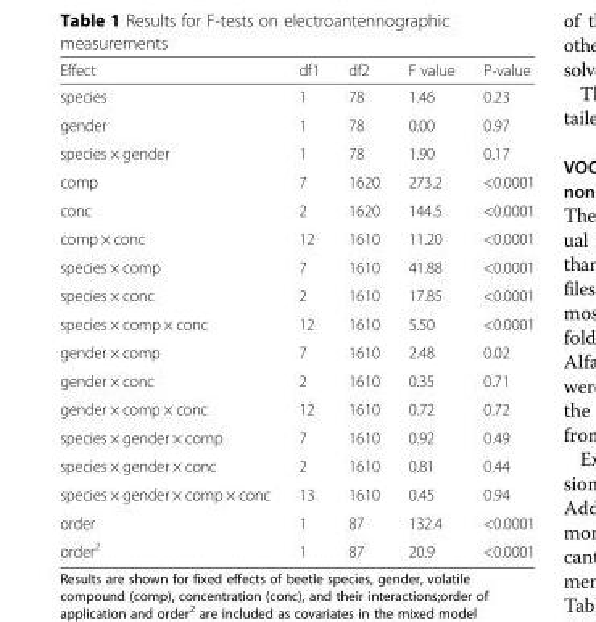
<table><thead><tr><td>Effect</td><td>df1</td><td>df2</td><td>F value</td><td>P-value</td></tr></thead><tbody><tr><td>species</td><td>1</td><td>78</td><td>1.46</td><td>0.23</td></tr><tr><td>gender</td><td>1</td><td>78</td><td>0.00</td><td>0.97</td></tr><tr><td>species × gender</td><td>1</td><td>78</td><td>1.90</td><td>0.17</td></tr><tr><td>comp</td><td>7</td><td>1620</td><td>273.2</td><td>&lt;0.0001</td></tr><tr><td>conc</td><td>2</td><td>1620</td><td>144.5</td><td>&lt;0.0001</td></tr><tr><td>comp × conc</td><td>12</td><td>1610</td><td>11.20</td><td>&lt;0.0001</td></tr><tr><td>species × comp</td><td>7</td><td>1610</td><td>41.88</td><td>&lt;0.0001</td></tr><tr><td>species × conc</td><td>2</td><td>1610</td><td>17.85</td><td>&lt;0.0001</td></tr><tr><td>species × comp × conc</td><td>12</td><td>1610</td><td>5.50</td><td>&lt;0.0001</td></tr><tr><td>gender × comp</td><td>7</td><td>1610</td><td>2.48</td><td>0.02</td></tr><tr><td>gender × conc</td><td>2</td><td>1610</td><td>0.35</td><td>0.71</td></tr><tr><td>gender × comp × conc</td><td>12</td><td>1610</td><td>0.72</td><td>0.72</td></tr><tr><td>species × gender × comp</td><td>7</td><td>1610</td><td>0.92</td><td>0.49</td></tr><tr><td>species × gender × conc</td><td>2</td><td>1610</td><td>0.81</td><td>0.44</td></tr><tr><td>species × gender × comp × conc</td><td>13</td><td>1610</td><td>0.45</td><td>0.94</td></tr><tr><td>order</td><td>1</td><td>87</td><td>132.4</td><td>&lt;0.0001</td></tr><tr><td>order<sup>2</sup></td><td>1</td><td>87</td><td>20.9</td><td>&lt;0.0001</td></tr></tbody></table>